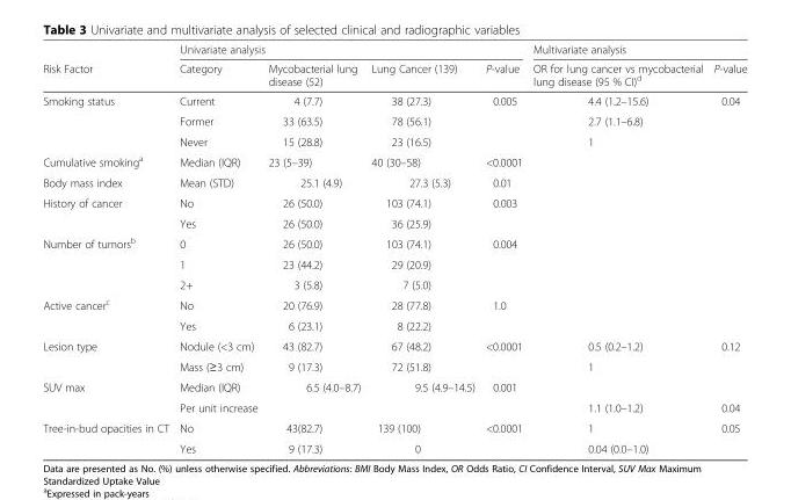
<table><thead><tr><td rowspan="2">Risk Factor</td><td colspan="4">Univariate analysis</td><td colspan="2">Multivariate analysis</td></tr><tr><td>Category</td><td>Mycobacterial lung disease (52)</td><td>Lung Cancer (139)</td><td>P-value</td><td>OR for lung cancer vs mycobacterial lung disease (95 % CI)<sup>d</sup></td><td>P-value</td></tr></thead><tbody><tr><td rowspan="3">Smoking status</td><td>Current</td><td>4 (7.7)</td><td>38 (27.3)</td><td>0.005</td><td>4.4 (1.2–15.6)</td><td>0.04</td></tr><tr><td>Former</td><td>33 (63.5)</td><td>78 (56.1)</td><td></td><td>2.7 (1.1–6.8)</td><td></td></tr><tr><td>Never</td><td>15 (28.8)</td><td>23 (16.5)</td><td></td><td>1</td><td></td></tr><tr><td>Cumulative smoking<sup>a</sup></td><td>Median (IQR)</td><td>23 (5–39)</td><td>40 (30–58)</td><td>&lt;0.0001</td><td></td><td></td></tr><tr><td>Body mass index</td><td>Mean (STD)</td><td>25.1 (4.9)</td><td>27.3 (5.3)</td><td>0.01</td><td></td><td></td></tr><tr><td rowspan="2">History of cancer</td><td>No</td><td>26 (50.0)</td><td>103 (74.1)</td><td>0.003</td><td></td><td></td></tr><tr><td>Yes</td><td>26 (50.0)</td><td>36 (25.9)</td><td></td><td></td><td></td></tr><tr><td rowspan="3">Number of tumors<sup>b</sup></td><td>0</td><td>26 (50.0)</td><td>103 (74.1)</td><td>0.004</td><td></td><td></td></tr><tr><td>1</td><td>23 (44.2)</td><td>29 (20.9)</td><td></td><td></td><td></td></tr><tr><td>2+</td><td>3 (5.8)</td><td>7 (5.0)</td><td></td><td></td><td></td></tr><tr><td rowspan="2">Active cancer<sup>c</sup></td><td>No</td><td>20 (76.9)</td><td>28 (77.8)</td><td>1.0</td><td></td><td></td></tr><tr><td>Yes</td><td>6 (23.1)</td><td>8 (22.2)</td><td></td><td></td><td></td></tr><tr><td rowspan="2">Lesion type</td><td>Nodule (&lt;3 cm)</td><td>43 (82.7)</td><td>67 (48.2)</td><td>&lt;0.0001</td><td>0.5 (0.2–1.2)</td><td>0.12</td></tr><tr><td>Mass (≥3 cm)</td><td>9 (17.3)</td><td>72 (51.8)</td><td></td><td>1</td><td></td></tr><tr><td rowspan="2">SUV max</td><td>Median (IQR)</td><td>6.5 (4.0–8.7)</td><td>9.5 (4.9–14.5)</td><td>0.001</td><td></td><td></td></tr><tr><td>Per unit increase</td><td></td><td></td><td></td><td>1.1 (1.0–1.2)</td><td>0.04</td></tr><tr><td rowspan="2">Tree-in-bud opacities in CT</td><td>No</td><td>43(82.7)</td><td>139 (100)</td><td>&lt;0.0001</td><td>1</td><td>0.05</td></tr><tr><td>Yes</td><td>9 (17.3)</td><td>0</td><td></td><td>0.04 (0.0–1.0)</td><td></td></tr></tbody></table>